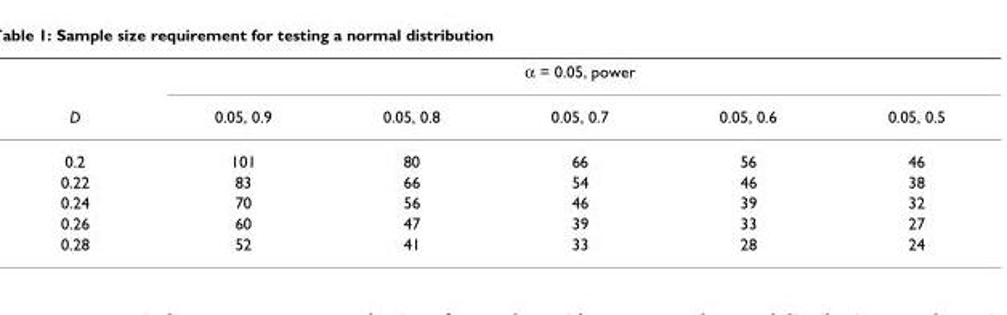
<table><thead><tr><td rowspan="2">D</td><td colspan="5">α = 0.05, power</td></tr><tr><td>0.05, 0.9</td><td>0.05, 0.8</td><td>0.05, 0.7</td><td>0.05, 0.6</td><td>0.05, 0.5</td></tr></thead><tbody><tr><td>0.2</td><td>101</td><td>80</td><td>66</td><td>56</td><td>46</td></tr><tr><td>0.22</td><td>83</td><td>66</td><td>54</td><td>46</td><td>38</td></tr><tr><td>0.24</td><td>70</td><td>56</td><td>46</td><td>39</td><td>32</td></tr><tr><td>0.26</td><td>60</td><td>47</td><td>39</td><td>33</td><td>27</td></tr><tr><td>0.28</td><td>52</td><td>41</td><td>33</td><td>28</td><td>24</td></tr></tbody></table>